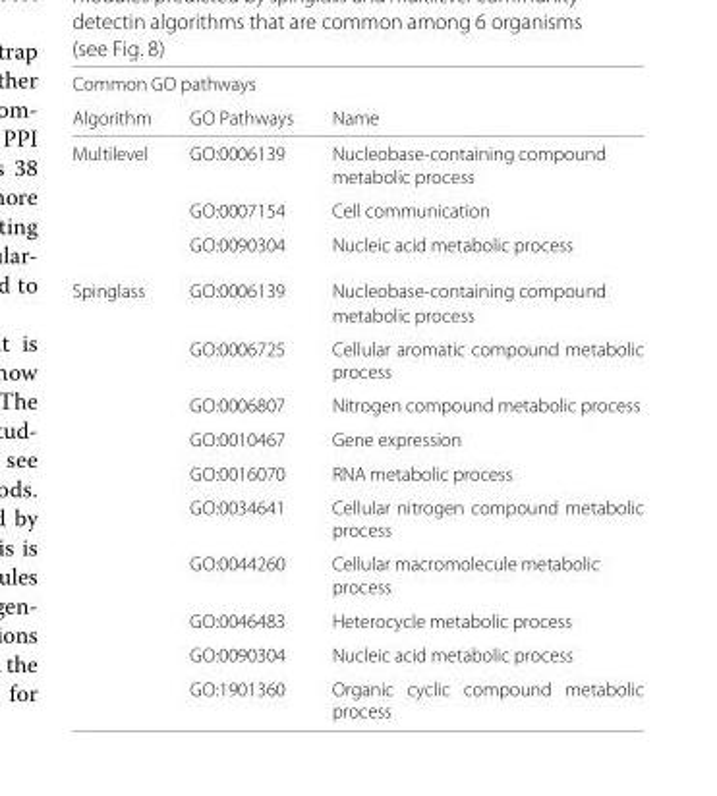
<table><thead><tr><td colspan="3">Common GO pathways</td></tr><tr><td>Algorithm</td><td>GO Pathways</td><td>Name</td></tr></thead><tbody><tr><td rowspan="4">Multilevel</td><td>GO:0006139</td><td>Nucleobase-containing compound</td></tr><tr><td></td><td>metabolic process</td></tr><tr><td>GO:0007154</td><td>Cell communication</td></tr><tr><td>GO:0090304</td><td>Nucleic acid metabolic process</td></tr><tr><td rowspan="12">Spinglass</td><td>GO:0006139</td><td>Nucleobase-containing compound</td></tr><tr><td></td><td>metabolic process</td></tr><tr><td>GO:0006725</td><td>Cellular aromatic compound metabolic process</td></tr><tr><td>GO:0006807</td><td>Nitrogen compound metabolic process</td></tr><tr><td>GO:0010467</td><td>Gene expression</td></tr><tr><td>GO:0016070</td><td>RNA metabolic process</td></tr><tr><td>GO:0034641</td><td>Cellular nitrogen compound metabolic process</td></tr><tr><td>GO:0044260</td><td>Cellular macromolecule metabolic</td></tr><tr><td></td><td>process</td></tr><tr><td>GO:0046483</td><td>Heterocycle metabolic process</td></tr><tr><td>GO:0090304</td><td>Nucleic acid metabolic process</td></tr><tr><td>GO:1901360</td><td>Organic cyclic compound metabolic process</td></tr></tbody></table>